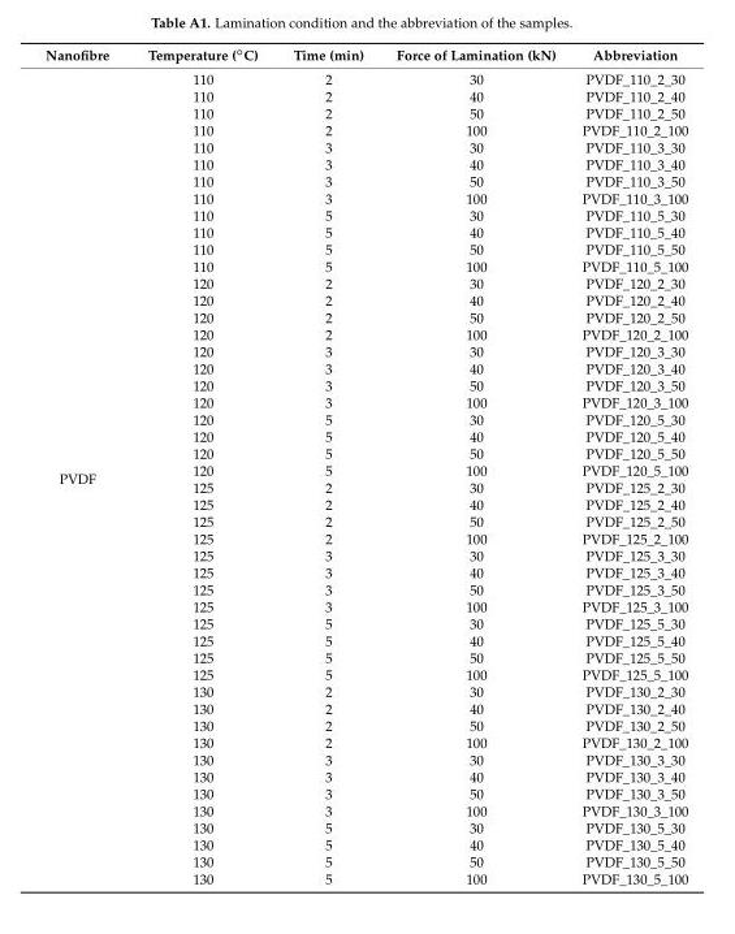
<table><thead><tr><td>Nanofibre</td><td>Temperature (◦C)</td><td>Time (min)</td><td>Force of Lamination (kN)</td><td>Abbreviation</td></tr></thead><tbody><tr><td rowspan="48">PVDF</td><td>110</td><td>2</td><td>30</td><td>PVDF_110_2_30</td></tr><tr><td>110</td><td>2</td><td>40</td><td>PVDF_110_2_40</td></tr><tr><td>110</td><td>2</td><td>50</td><td>PVDF_110_2_50</td></tr><tr><td>110</td><td>2</td><td>100</td><td>PVDF_110_2_100</td></tr><tr><td>110</td><td>3</td><td>30</td><td>PVDF_110_3_30</td></tr><tr><td>110</td><td>3</td><td>40</td><td>PVDF_110_3_40</td></tr><tr><td>110</td><td>3</td><td>50</td><td>PVDF_110_3_50</td></tr><tr><td>110</td><td>3</td><td>100</td><td>PVDF_110_3_100</td></tr><tr><td>110</td><td>5</td><td>30</td><td>PVDF_110_5_30</td></tr><tr><td>110</td><td>5</td><td>40</td><td>PVDF_110_5_40</td></tr><tr><td>110</td><td>5</td><td>50</td><td>PVDF_110_5_50</td></tr><tr><td>110</td><td>5</td><td>100</td><td>PVDF_110_5_100</td></tr><tr><td>120</td><td>2</td><td>30</td><td>PVDF_120_2_30</td></tr><tr><td>120</td><td>2</td><td>40</td><td>PVDF_120_2_40</td></tr><tr><td>120</td><td>2</td><td>50</td><td>PVDF_120_2_50</td></tr><tr><td>120</td><td>2</td><td>100</td><td>PVDF_120_2_100</td></tr><tr><td>120</td><td>3</td><td>30</td><td>PVDF_120_3_30</td></tr><tr><td>120</td><td>3</td><td>40</td><td>PVDF_120_3_40</td></tr><tr><td>120</td><td>3</td><td>50</td><td>PVDF_120_3_50</td></tr><tr><td>120</td><td>3</td><td>100</td><td>PVDF_120_3_100</td></tr><tr><td>120</td><td>5</td><td>30</td><td>PVDF_120_5_30</td></tr><tr><td>120</td><td>5</td><td>40</td><td>PVDF_120_5_40</td></tr><tr><td>120</td><td>5</td><td>50</td><td>PVDF_120_5_50</td></tr><tr><td>120</td><td>5</td><td>100</td><td>PVDF_120_5_100</td></tr><tr><td>125</td><td>2</td><td>30</td><td>PVDF_125_2_30</td></tr><tr><td>125</td><td>2</td><td>40</td><td>PVDF_125_2_40</td></tr><tr><td>125</td><td>2</td><td>50</td><td>PVDF_125_2_50</td></tr><tr><td>125</td><td>2</td><td>100</td><td>PVDF_125_2_100</td></tr><tr><td>125</td><td>3</td><td>30</td><td>PVDF_125_3_30</td></tr><tr><td>125</td><td>3</td><td>40</td><td>PVDF_125_3_40</td></tr><tr><td>125</td><td>3</td><td>50</td><td>PVDF_125_3_50</td></tr><tr><td>125</td><td>3</td><td>100</td><td>PVDF_125_3_100</td></tr><tr><td>125</td><td>5</td><td>30</td><td>PVDF_125_5_30</td></tr><tr><td>125</td><td>5</td><td>40</td><td>PVDF_125_5_40</td></tr><tr><td>125</td><td>5</td><td>50</td><td>PVDF_125_5_50</td></tr><tr><td>125</td><td>5</td><td>100</td><td>PVDF_125_5_100</td></tr><tr><td>130</td><td>2</td><td>30</td><td>PVDF_130_2_30</td></tr><tr><td>130</td><td>2</td><td>40</td><td>PVDF_130_2_40</td></tr><tr><td>130</td><td>2</td><td>50</td><td>PVDF_130_2_50</td></tr><tr><td>130</td><td>2</td><td>100</td><td>PVDF_130_2_100</td></tr><tr><td>130</td><td>3</td><td>30</td><td>PVDF_130_3_30</td></tr><tr><td>130</td><td>3</td><td>40</td><td>PVDF_130_3_40</td></tr><tr><td>130</td><td>3</td><td>50</td><td>PVDF_130_3_50</td></tr><tr><td>130</td><td>3</td><td>100</td><td>PVDF_130_3_100</td></tr><tr><td>130</td><td>5</td><td>30</td><td>PVDF_130_5_30</td></tr><tr><td>130</td><td>5</td><td>40</td><td>PVDF_130_5_40</td></tr><tr><td>130</td><td>5</td><td>50</td><td>PVDF_130_5_50</td></tr><tr><td>130</td><td>5</td><td>100</td><td>PVDF_130_5_100</td></tr></tbody></table>